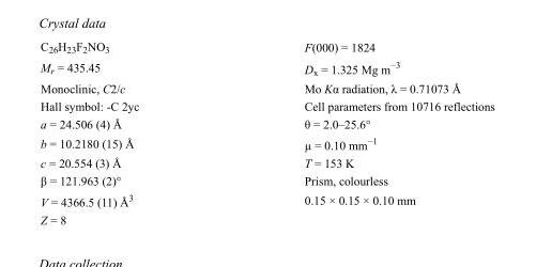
<table><tbody><tr><td>C<sub>26</sub>H<sub>23</sub>F<sub>2</sub>NO<sub>3</sub></td><td>F(000) = 1824</td></tr><tr><td>M<sub>r</sub> = 435.45</td><td>D<sub>x</sub> = 1.325 Mg m<sup>−3</sup></td></tr><tr><td>Monoclinic, C2/c</td><td>Mo Kα radiation, λ = 0.71073 Å</td></tr><tr><td>Hall symbol: -C 2yc</td><td>Cell parameters from 10716 reflections</td></tr><tr><td>a = 24.506 (4) Å</td><td>θ = 2.0–25.6°</td></tr><tr><td>b = 10.2180 (15) Å</td><td>µ = 0.10 mm<sup>−1</sup></td></tr><tr><td>c = 20.554 (3) Å</td><td>T = 153 K</td></tr><tr><td>β = 121.963 (2)°</td><td>Prism, colourless</td></tr><tr><td>V = 4366.5 (11) Å<sup>3</sup></td><td>0.15 × 0.15 × 0.10 mm</td></tr><tr><td>Z = 8</td><td></td></tr></tbody></table>